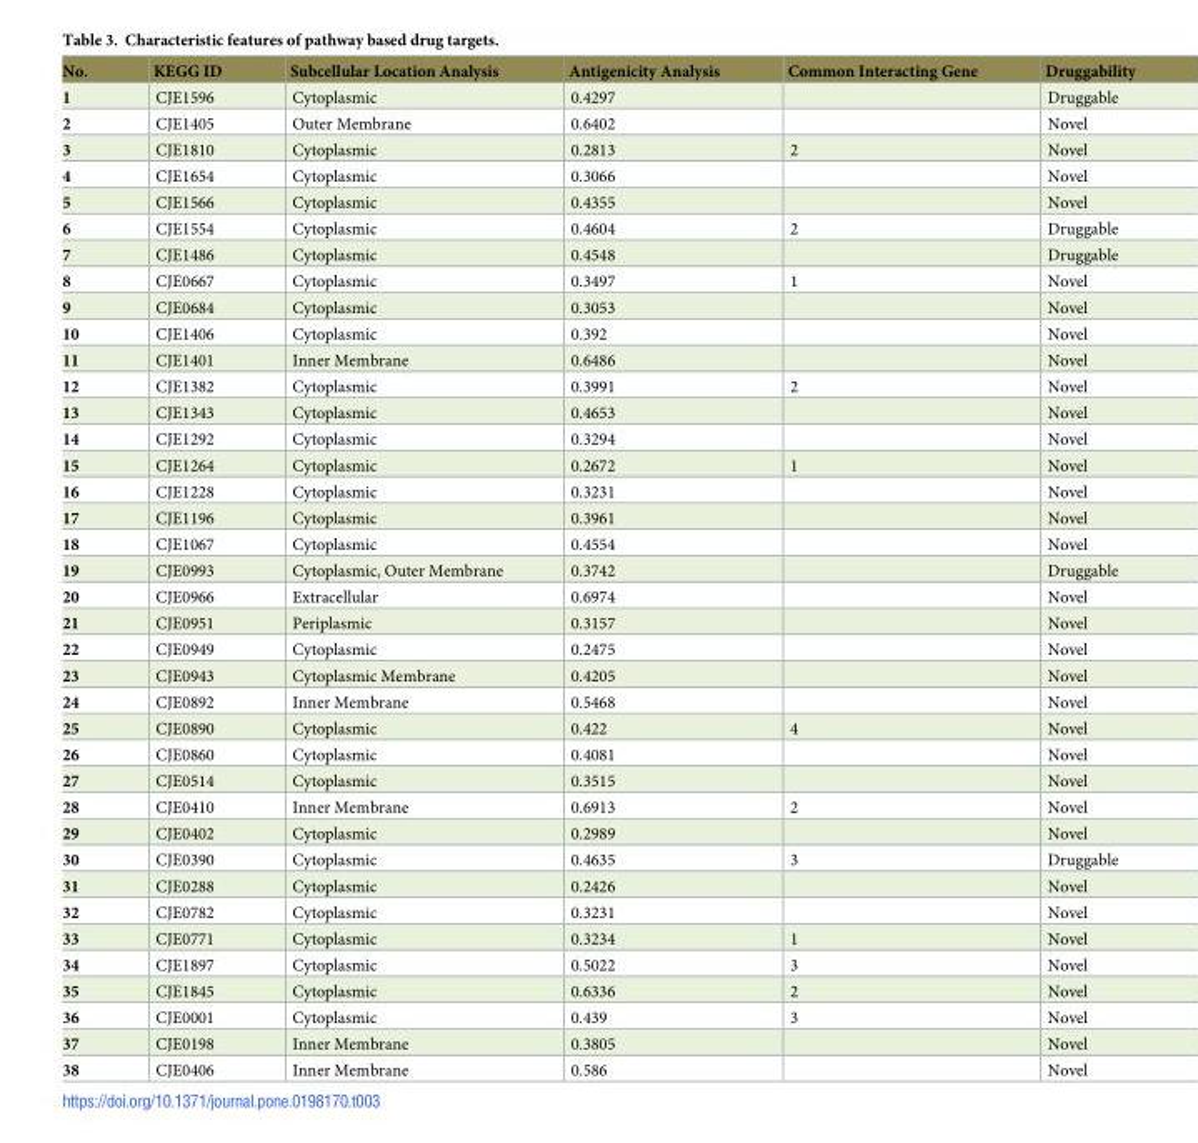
<table><thead><tr><td>No.</td><td>KEGG ID</td><td>Subcellular Location Analysis</td><td>Antigenicity Analysis</td><td>Common Interacting Gene</td><td>Druggability</td></tr></thead><tbody><tr><td>1</td><td>CJE1596</td><td>Cytoplasmic</td><td>0.4297</td><td></td><td>Druggable</td></tr><tr><td>2</td><td>CJE1405</td><td>Outer Membrane</td><td>0.6402</td><td></td><td>Novel</td></tr><tr><td>3</td><td>CJE1810</td><td>Cytoplasmic</td><td>0.2813</td><td>2</td><td>Novel</td></tr><tr><td>4</td><td>CJE1654</td><td>Cytoplasmic</td><td>0.3066</td><td></td><td>Novel</td></tr><tr><td>5</td><td>CJE1566</td><td>Cytoplasmic</td><td>0.4355</td><td></td><td>Novel</td></tr><tr><td>6</td><td>CJE1554</td><td>Cytoplasmic</td><td>0.4604</td><td>2</td><td>Druggable</td></tr><tr><td>7</td><td>CJE1486</td><td>Cytoplasmic</td><td>0.4548</td><td></td><td>Druggable</td></tr><tr><td>8</td><td>CJE0667</td><td>Cytoplasmic</td><td>0.3497</td><td>1</td><td>Novel</td></tr><tr><td>9</td><td>CJE0684</td><td>Cytoplasmic</td><td>0.3053</td><td></td><td>Novel</td></tr><tr><td>10</td><td>CJE1406</td><td>Cytoplasmic</td><td>0.392</td><td></td><td>Novel</td></tr><tr><td>11</td><td>CJE1401</td><td>Inner Membrane</td><td>0.6486</td><td></td><td>Novel</td></tr><tr><td>12</td><td>CJE1382</td><td>Cytoplasmic</td><td>0.3991</td><td>2</td><td>Novel</td></tr><tr><td>13</td><td>CJE1343</td><td>Cytoplasmic</td><td>0.4653</td><td></td><td>Novel</td></tr><tr><td>14</td><td>CJE1292</td><td>Cytoplasmic</td><td>0.3294</td><td></td><td>Novel</td></tr><tr><td>15</td><td>CJE1264</td><td>Cytoplasmic</td><td>0.2672</td><td>1</td><td>Novel</td></tr><tr><td>16</td><td>CJE1228</td><td>Cytoplasmic</td><td>0.3231</td><td></td><td>Novel</td></tr><tr><td>17</td><td>CJE1196</td><td>Cytoplasmic</td><td>0.3961</td><td></td><td>Novel</td></tr><tr><td>18</td><td>CJE1067</td><td>Cytoplasmic</td><td>0.4554</td><td></td><td>Novel</td></tr><tr><td>19</td><td>CJE0993</td><td>Cytoplasmic, Outer Membrane</td><td>0.3742</td><td></td><td>Druggable</td></tr><tr><td>20</td><td>CJE0966</td><td>Extracellular</td><td>0.6974</td><td></td><td>Novel</td></tr><tr><td>21</td><td>CJE0951</td><td>Periplasmic</td><td>0.3157</td><td></td><td>Novel</td></tr><tr><td>22</td><td>CJE0949</td><td>Cytoplasmic</td><td>0.2475</td><td></td><td>Novel</td></tr><tr><td>23</td><td>CJE0943</td><td>Cytoplasmic Membrane</td><td>0.4205</td><td></td><td>Novel</td></tr><tr><td>24</td><td>CJE0892</td><td>Inner Membrane</td><td>0.5468</td><td></td><td>Novel</td></tr><tr><td>25</td><td>CJE0890</td><td>Cytoplasmic</td><td>0.422</td><td>4</td><td>Novel</td></tr><tr><td>26</td><td>CJE0860</td><td>Cytoplasmic</td><td>0.4081</td><td></td><td>Novel</td></tr><tr><td>27</td><td>CJE0514</td><td>Cytoplasmic</td><td>0.3515</td><td></td><td>Novel</td></tr><tr><td>28</td><td>CJE0410</td><td>Inner Membrane</td><td>0.6913</td><td>2</td><td>Novel</td></tr><tr><td>29</td><td>CJE0402</td><td>Cytoplasmic</td><td>0.2989</td><td></td><td>Novel</td></tr><tr><td>30</td><td>CJE0390</td><td>Cytoplasmic</td><td>0.4635</td><td>3</td><td>Druggable</td></tr><tr><td>31</td><td>CJE0288</td><td>Cytoplasmic</td><td>0.2426</td><td></td><td>Novel</td></tr><tr><td>32</td><td>CJE0782</td><td>Cytoplasmic</td><td>0.3231</td><td></td><td>Novel</td></tr><tr><td>33</td><td>CJE0771</td><td>Cytoplasmic</td><td>0.3234</td><td>1</td><td>Novel</td></tr><tr><td>34</td><td>CJE1897</td><td>Cytoplasmic</td><td>0.5022</td><td>3</td><td>Novel</td></tr><tr><td>35</td><td>CJE1845</td><td>Cytoplasmic</td><td>0.6336</td><td>2</td><td>Novel</td></tr><tr><td>36</td><td>CJE0001</td><td>Cytoplasmic</td><td>0.439</td><td>3</td><td>Novel</td></tr><tr><td>37</td><td>CJE0198</td><td>Inner Membrane</td><td>0.3805</td><td></td><td>Novel</td></tr><tr><td>38</td><td>CJE0406</td><td>Inner Membrane</td><td>0.586</td><td></td><td>Novel</td></tr></tbody></table>